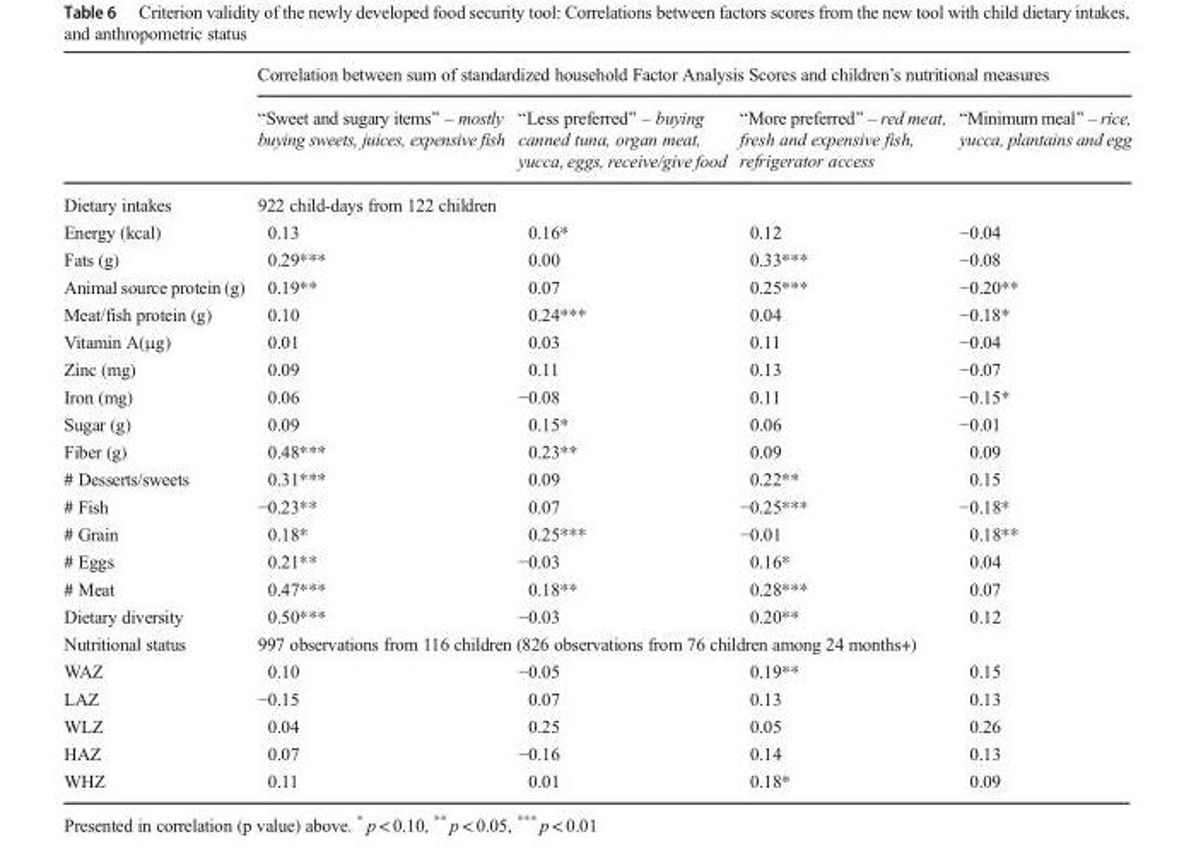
<table><thead><tr><td rowspan="2"></td><td colspan="4">Correlation between sum of standardized household Factor Analysis Scores and children’s nutritional measures</td></tr><tr><td>BSweet and sugary items^ – mostly buying sweets, juices, expensive fish</td><td>BLess preferred^ – buying canned tuna, organ meat, yucca, eggs, receive/give food</td><td>BMore preferred^ – red meat, fresh and expensive fish, refrigerator access</td><td>BMinimum meal^ – rice, yucca, plantains and egg</td></tr></thead><tbody><tr><td>Dietary intakes</td><td colspan="4">922 child-days from 122 children</td></tr><tr><td>Energy (kcal)</td><td>0.13</td><td>0.16*</td><td>0.12</td><td>−0.04</td></tr><tr><td>Fats (g)</td><td>0.29***</td><td>0.00</td><td>0.33***</td><td>−0.08</td></tr><tr><td>Animal source protein (g)</td><td>0.19**</td><td>0.07</td><td>0.25***</td><td>−0.20**</td></tr><tr><td>Meat/fish protein (g)</td><td>0.10</td><td>0.24***</td><td>0.04</td><td>−0.18*</td></tr><tr><td>Vitamin A(μg)</td><td>0.01</td><td>0.03</td><td>0.11</td><td>−0.04</td></tr><tr><td>Zinc (mg)</td><td>0.09</td><td>0.11</td><td>0.13</td><td>−0.07</td></tr><tr><td>Iron (mg)</td><td>0.06</td><td>−0.08</td><td>0.11</td><td>−0.15*</td></tr><tr><td>Sugar (g)</td><td>0.09</td><td>0.15*</td><td>0.06</td><td>−0.01</td></tr><tr><td>Fiber (g)</td><td>0.48***</td><td>0.23**</td><td>0.09</td><td>0.09</td></tr><tr><td># Desserts/sweets</td><td>0.31***</td><td>0.09</td><td>0.22**</td><td>0.15</td></tr><tr><td># Fish</td><td>−0.23**</td><td>0.07</td><td>−0.25***</td><td>−0.18*</td></tr><tr><td># Grain</td><td>0.18*</td><td>0.25***</td><td>−0.01</td><td>0.18**</td></tr><tr><td># Eggs</td><td>0.21**</td><td>−0.03</td><td>0.16*</td><td>0.04</td></tr><tr><td># Meat</td><td>0.47***</td><td>0.18**</td><td>0.28***</td><td>0.07</td></tr><tr><td>Dietary diversity</td><td>0.50***</td><td>−0.03</td><td>0.20**</td><td>0.12</td></tr><tr><td>Nutritional status</td><td colspan="4">997 observations from 116 children (826 observations from 76 children among 24 months+)</td></tr><tr><td>WAZ</td><td>0.10</td><td>−0.05</td><td>0.19**</td><td>0.15</td></tr><tr><td>LAZ</td><td>−0.15</td><td>0.07</td><td>0.13</td><td>0.13</td></tr><tr><td>WLZ</td><td>0.04</td><td>0.25</td><td>0.05</td><td>0.26</td></tr><tr><td>HAZ</td><td>0.07</td><td>−0.16</td><td>0.14</td><td>0.13</td></tr><tr><td>WHZ</td><td>0.11</td><td>0.01</td><td>0.18*</td><td>0.09</td></tr></tbody></table>